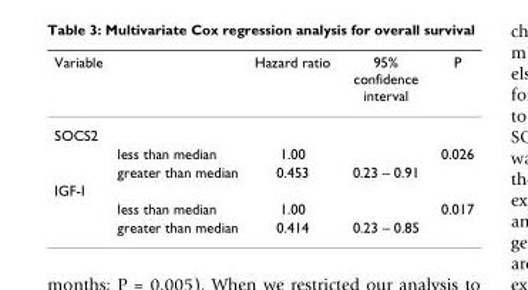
<table><thead><tr><td>Variable</td><td></td><td>Hazard ratio</td><td>95% confidence interval</td><td>P</td></tr></thead><tbody><tr><td colspan="5">SOCS2</td></tr><tr><td></td><td>less than median</td><td>1.00</td><td></td><td>0.026</td></tr><tr><td></td><td>greater than median</td><td>0.453</td><td>0.23 – 0.91</td><td></td></tr><tr><td colspan="5">IGF-I</td></tr><tr><td></td><td>less than median</td><td>1.00</td><td></td><td>0.017</td></tr><tr><td></td><td>greater than median</td><td>0.414</td><td>0.23 – 0.85</td><td></td></tr></tbody></table>